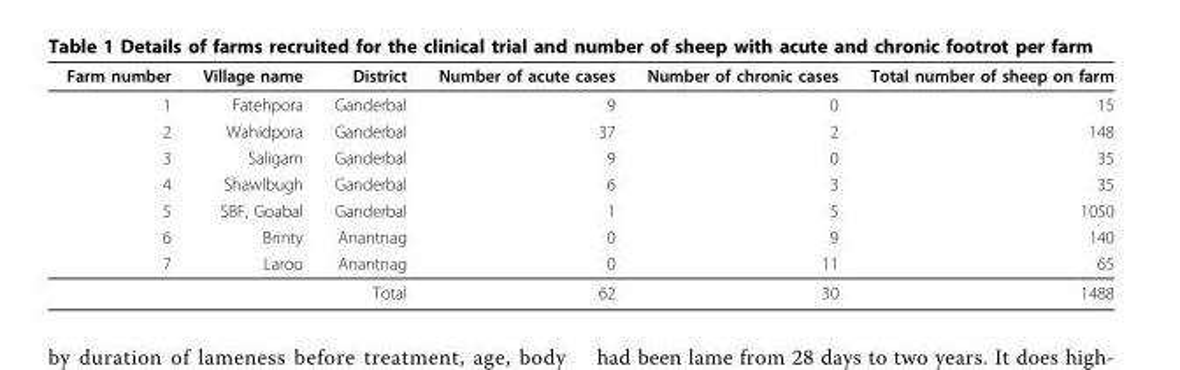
<table><thead><tr><td>Farm number</td><td>Village name</td><td>District</td><td>Number of acute cases</td><td>Number of chronic cases</td><td>Total number of sheep on farm</td></tr></thead><tbody><tr><td>1</td><td>Fatehpora</td><td>Ganderbal</td><td>9</td><td>0</td><td>15</td></tr><tr><td>2</td><td>Wahidpora</td><td>Ganderbal</td><td>37</td><td>2</td><td>148</td></tr><tr><td>3</td><td>Saligam</td><td>Ganderbal</td><td>9</td><td>0</td><td>35</td></tr><tr><td>4</td><td>Shawlbugh</td><td>Ganderbal</td><td>6</td><td>3</td><td>35</td></tr><tr><td>5</td><td>SBF, Goabal</td><td>Ganderbal</td><td>1</td><td>5</td><td>1050</td></tr><tr><td>6</td><td>Brinty</td><td>Anantnag</td><td>0</td><td>9</td><td>140</td></tr><tr><td>7</td><td>Laroo</td><td>Anantnag</td><td>0</td><td>11</td><td>65</td></tr><tr><td colspan="3">Total</td><td>62</td><td>30</td><td>1488</td></tr></tbody></table>